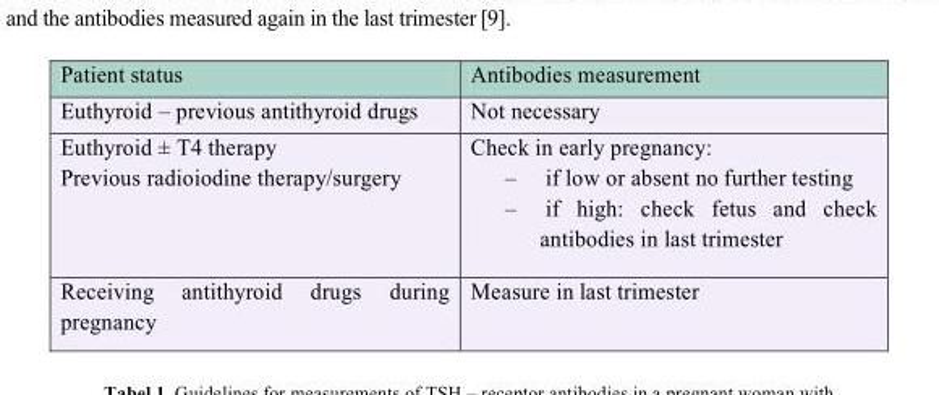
<table><thead><tr><td>Patient status</td><td>Antibodies measurement</td></tr></thead><tbody><tr><td>Euthyroid – previous antithyroid drugs</td><td>Not necessary</td></tr><tr><td>Euthyroid ± T4 therapy Previous radioiodine therapy/surgery</td><td>Check in early pregnancy: – if low or absent no further testing – if high: check fetus and check antibodies in last trimester</td></tr><tr><td>Receiving antithyroid drugs during pregnancy</td><td>Measure in last trimester</td></tr></tbody></table>